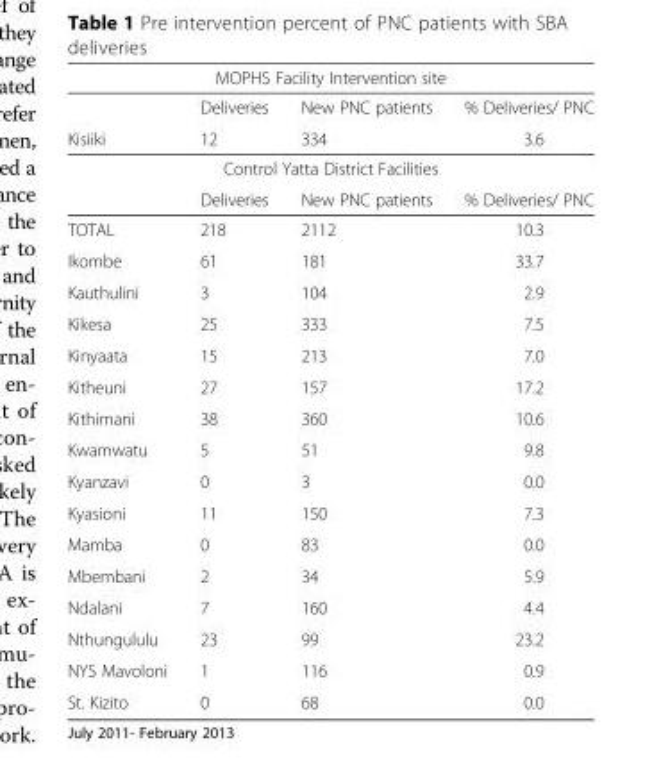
<table><thead><tr><td colspan="4">MOPHS Facility Intervention site</td></tr><tr><td></td><td>Deliveries</td><td>New PNC patients</td><td>% Deliveries/ PNC</td></tr></thead><tbody><tr><td>Kisiiki</td><td>12</td><td>334</td><td>3.6</td></tr><tr><td colspan="4">Control Yatta District Facilities</td></tr><tr><td></td><td>Deliveries</td><td>New PNC patients</td><td>% Deliveries/ PNC</td></tr><tr><td>TOTAL</td><td>218</td><td>2112</td><td>10.3</td></tr><tr><td>Ikombe</td><td>61</td><td>181</td><td>33.7</td></tr><tr><td>Kauthulini</td><td>3</td><td>104</td><td>2.9</td></tr><tr><td>Kikesa</td><td>25</td><td>333</td><td>7.5</td></tr><tr><td>Kinyaata</td><td>15</td><td>213</td><td>7.0</td></tr><tr><td>Kitheuni</td><td>27</td><td>157</td><td>17.2</td></tr><tr><td>Kithimani</td><td>38</td><td>360</td><td>10.6</td></tr><tr><td>Kwamwatu</td><td>5</td><td>51</td><td>9.8</td></tr><tr><td>Kyanzavi</td><td>0</td><td>3</td><td>0.0</td></tr><tr><td>Kyasioni</td><td>11</td><td>150</td><td>7.3</td></tr><tr><td>Mamba</td><td>0</td><td>83</td><td>0.0</td></tr><tr><td>Mbembani</td><td>2</td><td>34</td><td>5.9</td></tr><tr><td>Ndalani</td><td>7</td><td>160</td><td>4.4</td></tr><tr><td>Nthungululu</td><td>23</td><td>99</td><td>23.2</td></tr><tr><td>NYS Mavoloni</td><td>1</td><td>116</td><td>0.9</td></tr><tr><td>St. Kizito</td><td>0</td><td>68</td><td>0.0</td></tr></tbody></table>